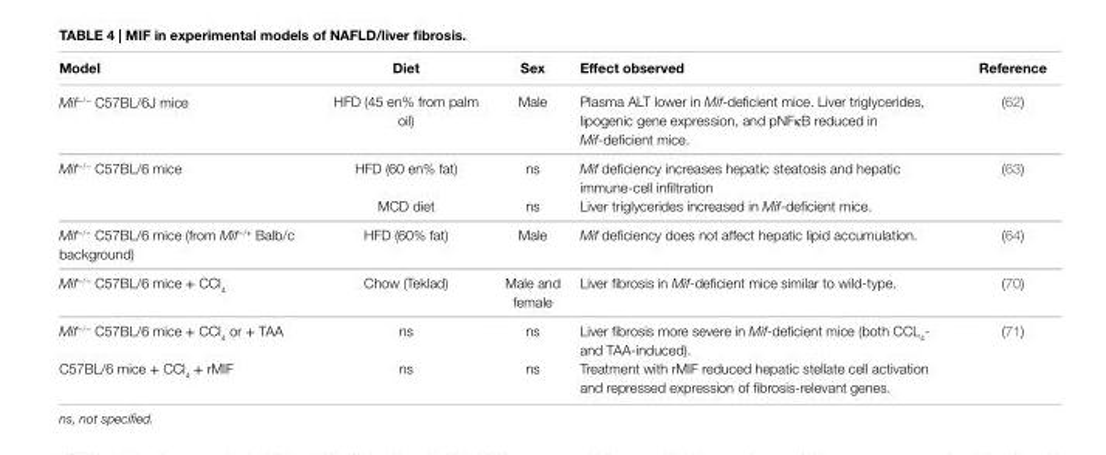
<table><thead><tr><td>Model</td><td>Diet</td><td>Sex</td><td>effect observed</td><td>Reference</td></tr></thead><tbody><tr><td>Mif<sup>−/−</sup> C57BL/6J mice</td><td>HFD (45 en% from palm oil)</td><td>Male</td><td>Plasma ALT lower in Mif-deficient mice. Liver triglycerides, lipogenic gene expression, and pNFκB reduced in Mif-deficient mice.</td><td>(62)</td></tr><tr><td rowspan="2">Mif<sup>−/−</sup> C57BL/6 mice</td><td>HFD (60 en% fat)</td><td>ns</td><td>Mif deficiency increases hepatic steatosis and hepatic immune-cell infiltration</td><td rowspan="2">(63)</td></tr><tr><td>MCD diet</td><td>ns</td><td>Liver triglycerides increased in Mif-deficient mice.</td></tr><tr><td>Mif<sup>−/−</sup> C57BL/6 mice (from Mif<sup>−/+</sup> Balb/c background)</td><td>HFD (60% fat)</td><td>Male</td><td>Mif deficiency does not affect hepatic lipid accumulation.</td><td>(64)</td></tr><tr><td>Mif<sup>−/−</sup> C57BL/6 mice + CCl<sub>4</sub></td><td>Chow (Teklad)</td><td>Male and female</td><td>Liver fibrosis in Mif-deficient mice similar to wild-type.</td><td>(70)</td></tr><tr><td>Mif<sup>−/−</sup> C57BL/6 mice + CCl<sub>4</sub> or + TAA</td><td>ns</td><td>ns</td><td>Liver fibrosis more severe in Mif-deficient mice (both CCL<sub>4</sub>- and TAA-induced).</td><td rowspan="2">(71)</td></tr><tr><td>C57BL/6 mice + CCl<sub>4</sub> + rMIF</td><td>ns</td><td>ns</td><td>Treatment with rMIF reduced hepatic stellate cell activation and repressed expression of fibrosis-relevant genes.</td></tr></tbody></table>